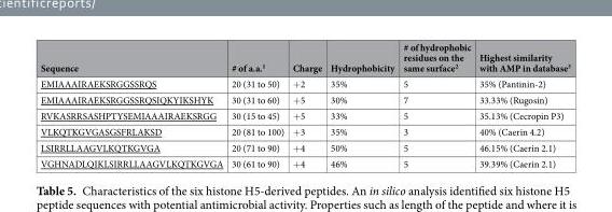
<table><thead><tr><td>Sequence</td><td># of a.a.<sup>1</sup></td><td>Charge</td><td>Hydrophobicity</td><td># of hydrophobic residues on the same surface<sup>2</sup></td><td>Highest similarity with AMP in database<sup>3</sup></td></tr></thead><tbody><tr><td>EMIAAAIRAEKSRGGSSRQS</td><td>20 (31 to 50)</td><td>+2</td><td>35%</td><td>5</td><td>35% (Pantinin-2)</td></tr><tr><td>EMIAAAIRAEKSRGGSSRQSIQKYIKSHYK</td><td>30 (31 to 60)</td><td>+5</td><td>30%</td><td>7</td><td>33.33% (Rugosin)</td></tr><tr><td>RVKASRRSASHPTYSEMIAAAIRAEKSRGG</td><td>30 (15 to 45)</td><td>+5</td><td>33%</td><td>5</td><td>35.13% (Cecropin P3)</td></tr><tr><td>VLKQTKGVGASGSFRLAKSD</td><td>20 (81 to 100)</td><td>+3</td><td>35%</td><td>3</td><td>40% (Caerin 4.2)</td></tr><tr><td>LSIRRLLAAGVLKQTKGVGA</td><td>20 (71 to 90)</td><td>+4</td><td>50%</td><td>5</td><td>46.15% (Caerin 2.1)</td></tr><tr><td>VGHNADLQIKLSIRRLLAAGVLKQTKGVGA</td><td>30 (61 to 90)</td><td>+4</td><td>46%</td><td>5</td><td>39.39% (Caerin 2.1)</td></tr></tbody></table>